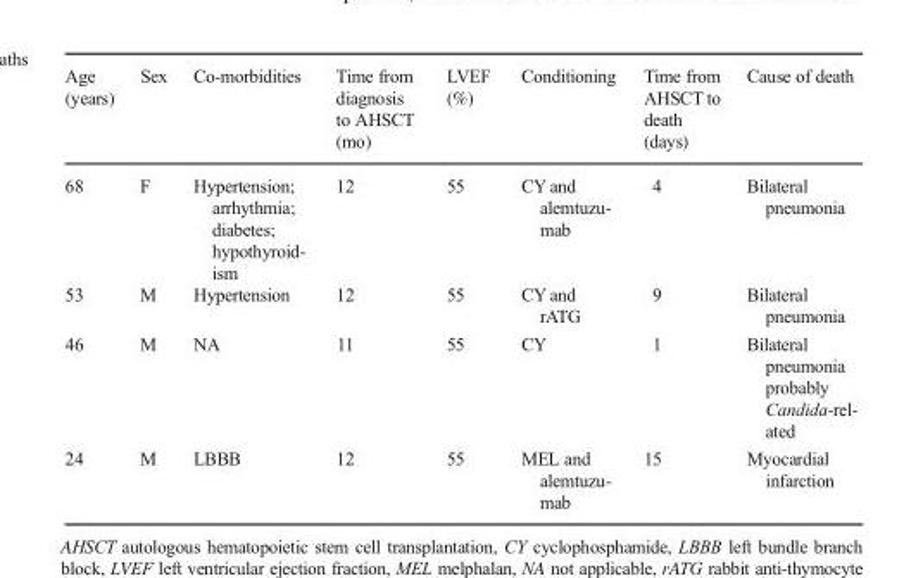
<table><thead><tr><td>Age (years)</td><td>Sex</td><td>Co-morbidities</td><td>Time from diagnosis to AHSCT (mo)</td><td>LVEF (%)</td><td>Conditioning</td><td>Time from AHSCT to death (days)</td><td>Cause of death</td></tr></thead><tbody><tr><td>68</td><td>F</td><td>Hypertension; arrhythmia; diabetes; hypothyroid- ism</td><td>12</td><td>55</td><td>CY and alemtuzu- mab</td><td>4</td><td>Bilateral pneumonia</td></tr><tr><td>53</td><td>M</td><td>Hypertension</td><td>12</td><td>55</td><td>CY and rATG</td><td>9</td><td>Bilateral pneumonia</td></tr><tr><td>46</td><td>M</td><td>NA</td><td>11</td><td>55</td><td>CY</td><td>1</td><td>Bilateral pneumonia probably Candida-rel- ated</td></tr><tr><td>24</td><td>M</td><td>LBBB</td><td>12</td><td>55</td><td>MEL and alemtuzu- mab</td><td>15</td><td>Myocardial infarction</td></tr></tbody></table>